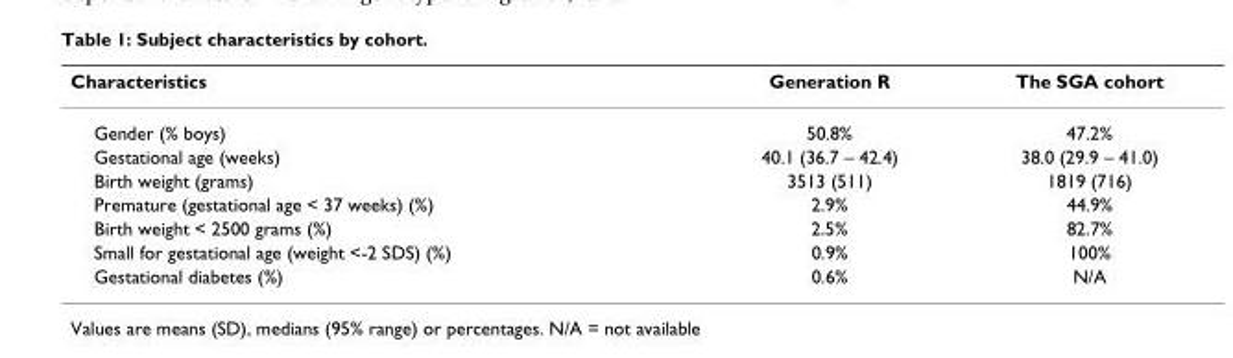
<table><thead><tr><td>Characteristics</td><td>Generation R</td><td>The SGA cohort</td></tr></thead><tbody><tr><td>Gender (% boys)</td><td>50.8%</td><td>47.2%</td></tr><tr><td>Gestational age (weeks)</td><td>40.1 (36.7 – 42.4)</td><td>38.0 (29.9 – 41.0)</td></tr><tr><td>Birth weight (grams)</td><td>3513 (511)</td><td>1819 (716)</td></tr><tr><td>Premature (gestational age &lt; 37 weeks) (%)</td><td>2.9%</td><td>44.9%</td></tr><tr><td>Birth weight &lt; 2500 grams (%)</td><td>2.5%</td><td>82.7%</td></tr><tr><td>Small for gestational age (weight &lt;-2 SDS) (%)</td><td>0.9%</td><td>100%</td></tr><tr><td>Gestational diabetes (%)</td><td>0.6%</td><td>N/A</td></tr></tbody></table>